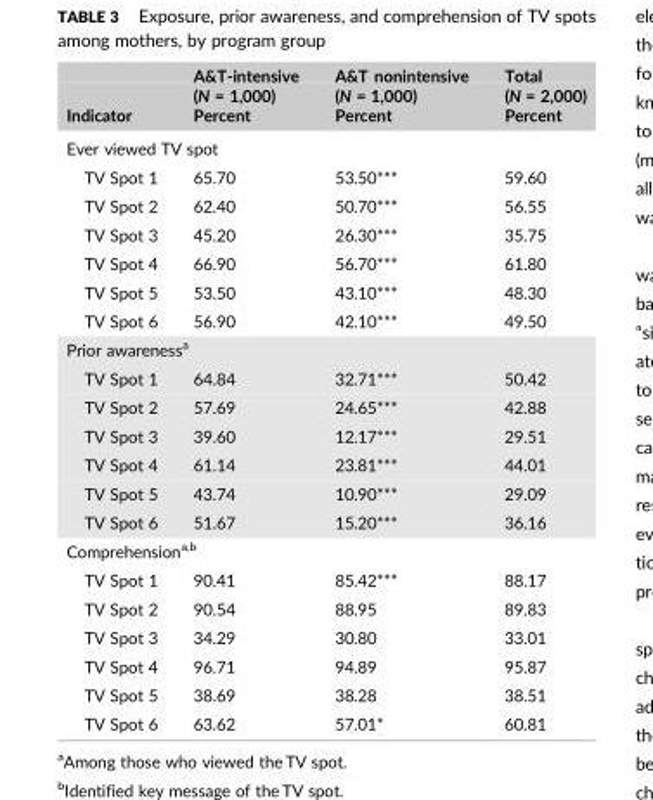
<table><thead><tr><td rowspan="3">Indicator</td><td rowspan="3">A&amp;T‐intensive (N = 1,000) Percent</td><td rowspan="3">A&amp;T nonintensive (N = 1,000) Percent</td><td rowspan="3">Total (N = 2,000) Percent</td></tr><tr></tr><tr></tr></thead><tbody><tr><td colspan="4">Ever viewed TV spot</td></tr><tr><td>TV Spot 1</td><td>65.70</td><td>53.50***</td><td>59.60</td></tr><tr><td>TV Spot 2</td><td>62.40</td><td>50.70***</td><td>56.55</td></tr><tr><td>TV Spot 3</td><td>45.20</td><td>26.30***</td><td>35.75</td></tr><tr><td>TV Spot 4</td><td>66.90</td><td>56.70***</td><td>61.80</td></tr><tr><td>TV Spot 5</td><td>53.50</td><td>43.10***</td><td>48.30</td></tr><tr><td>TV Spot 6</td><td>56.90</td><td>42.10***</td><td>49.50</td></tr><tr><td colspan="4">Prior awareness<sup>a</sup></td></tr><tr><td>TV Spot 1</td><td>64.84</td><td>32.71***</td><td>50.42</td></tr><tr><td>TV Spot 2</td><td>57.69</td><td>24.65***</td><td>42.88</td></tr><tr><td>TV Spot 3</td><td>39.60</td><td>12.17***</td><td>29.51</td></tr><tr><td>TV Spot 4</td><td>61.14</td><td>23.81***</td><td>44.01</td></tr><tr><td>TV Spot 5</td><td>43.74</td><td>10.90***</td><td>29.09</td></tr><tr><td>TV Spot 6</td><td>51.67</td><td>15.20***</td><td>36.16</td></tr><tr><td colspan="4">Comprehension<sup>a,</sup>b</td></tr><tr><td>TV Spot 1</td><td>90.41</td><td>85.42***</td><td>88.17</td></tr><tr><td>TV Spot 2</td><td>90.54</td><td>88.95</td><td>89.83</td></tr><tr><td>TV Spot 3</td><td>34.29</td><td>30.80</td><td>33.01</td></tr><tr><td>TV Spot 4</td><td>96.71</td><td>94.89</td><td>95.87</td></tr><tr><td>TV Spot 5</td><td>38.69</td><td>38.28</td><td>38.51</td></tr><tr><td>TV Spot 6</td><td>63.62</td><td>57.01*</td><td>60.81</td></tr></tbody></table>